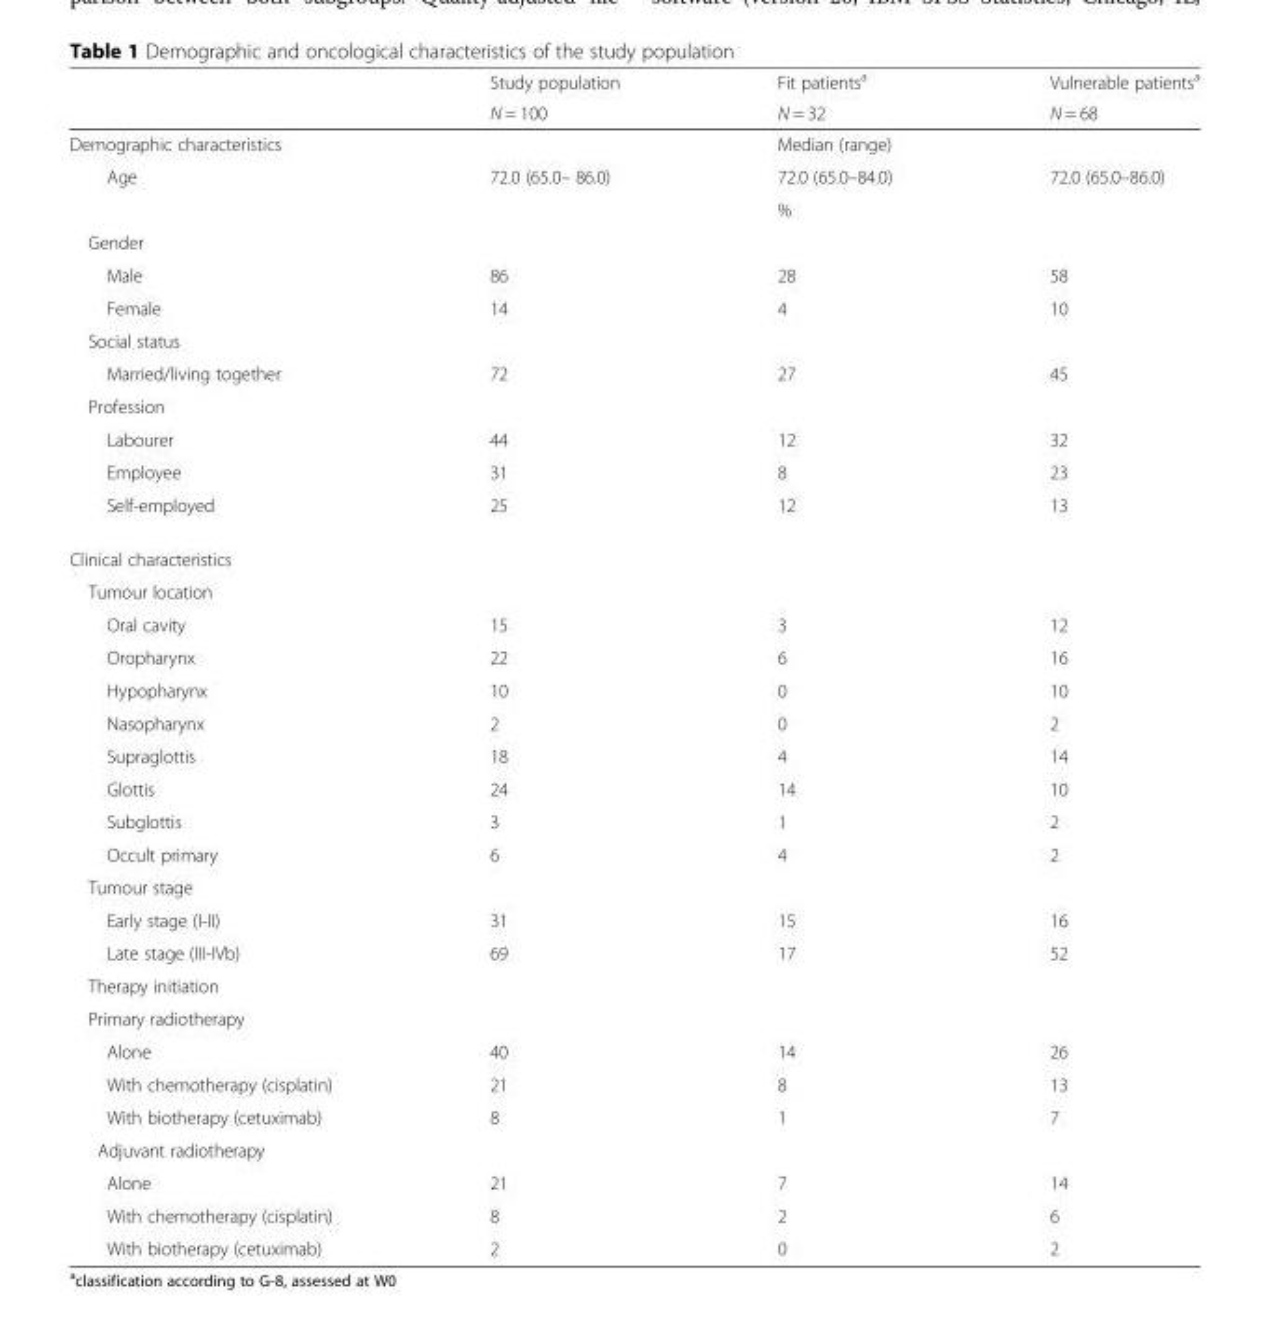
<table><thead><tr><td rowspan="2"></td><td rowspan="2">Study population N = 100</td><td rowspan="2">Fit patients<sup>a</sup> N = 32</td><td rowspan="2">Vulnerable patients<sup>a</sup> N = 68</td></tr><tr></tr></thead><tbody><tr><td>Demographic characteristics</td><td></td><td>Median (range)</td><td></td></tr><tr><td rowspan="2">Age</td><td>72.0 (65.0– 86.0)</td><td>72.0 (65.0–84.0)</td><td>72.0 (65.0–86.0)</td></tr><tr><td></td><td>%</td><td></td></tr><tr><td colspan="4">Gender</td></tr><tr><td>Male</td><td>86</td><td>28</td><td>58</td></tr><tr><td>Female</td><td>14</td><td>4</td><td>10</td></tr><tr><td colspan="4">Social status</td></tr><tr><td>Married/living together</td><td>72</td><td>27</td><td>45</td></tr><tr><td colspan="4">Profession</td></tr><tr><td>Labourer</td><td>44</td><td>12</td><td>32</td></tr><tr><td>Employee</td><td>31</td><td>8</td><td>23</td></tr><tr><td>Self-employed</td><td>25</td><td>12</td><td>13</td></tr><tr><td colspan="4">Clinical characteristics</td></tr><tr><td colspan="4">Tumour location</td></tr><tr><td>Oral cavity</td><td>15</td><td>3</td><td>12</td></tr><tr><td>Oropharynx</td><td>22</td><td>6</td><td>16</td></tr><tr><td>Hypopharynx</td><td>10</td><td>0</td><td>10</td></tr><tr><td>Nasopharynx</td><td>2</td><td>0</td><td>2</td></tr><tr><td>Supraglottis</td><td>18</td><td>4</td><td>14</td></tr><tr><td>Glottis</td><td>24</td><td>14</td><td>10</td></tr><tr><td>Subglottis</td><td>3</td><td>1</td><td>2</td></tr><tr><td>Occult primary</td><td>6</td><td>4</td><td>2</td></tr><tr><td colspan="4">Tumour stage</td></tr><tr><td>Early stage (I-II)</td><td>31</td><td>15</td><td>16</td></tr><tr><td>Late stage (III-IVb)</td><td>69</td><td>17</td><td>52</td></tr><tr><td colspan="4">Therapy initiation</td></tr><tr><td colspan="4">Primary radiotherapy</td></tr><tr><td>Alone</td><td>40</td><td>14</td><td>26</td></tr><tr><td>With chemotherapy (cisplatin)</td><td>21</td><td>8</td><td>13</td></tr><tr><td>With biotherapy (cetuximab)</td><td>8</td><td>1</td><td>7</td></tr><tr><td colspan="4">Adjuvant radiotherapy</td></tr><tr><td>Alone</td><td>21</td><td>7</td><td>14</td></tr><tr><td>With chemotherapy (cisplatin)</td><td>8</td><td>2</td><td>6</td></tr><tr><td>With biotherapy (cetuximab)</td><td>2</td><td>0</td><td>2</td></tr></tbody></table>